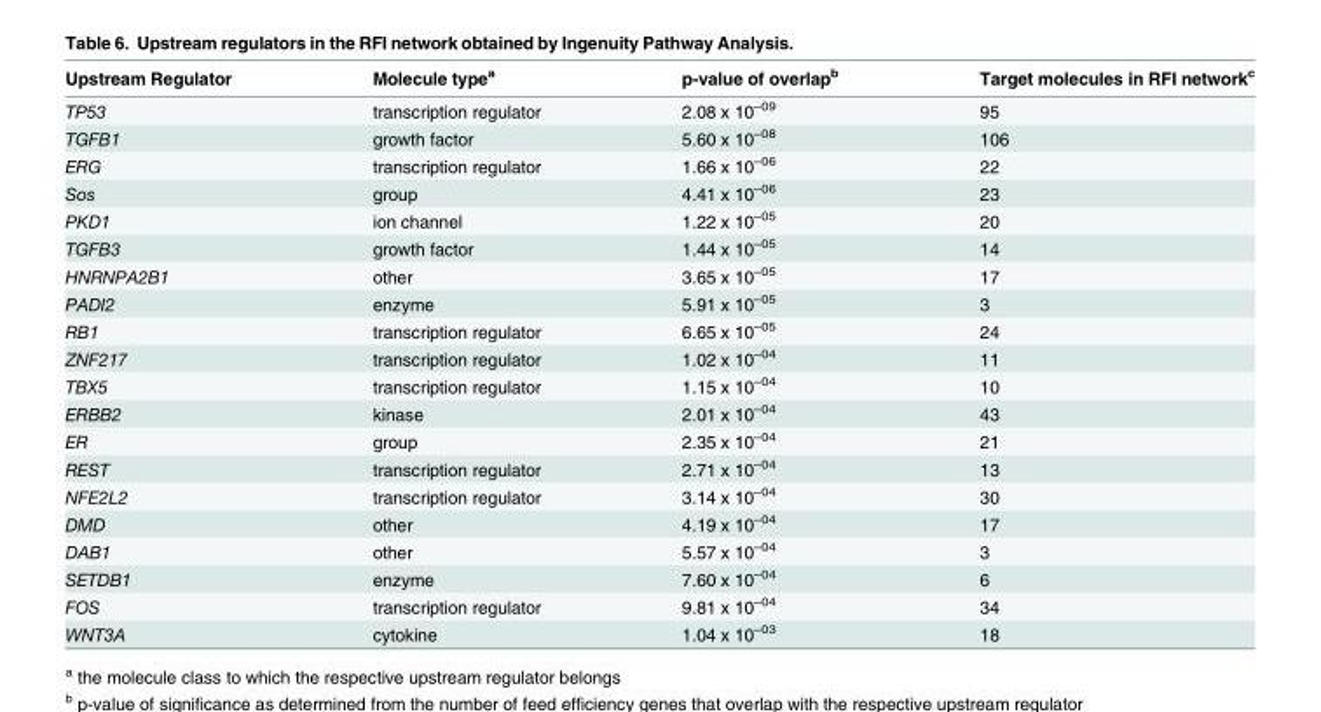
<table><thead><tr><td>Upstream Regulator</td><td>Molecule type<sup>a</sup></td><td>p-value of overlap<sup>b</sup></td><td>Target molecules in RFI network<sup>c</sup></td></tr></thead><tbody><tr><td>TP53</td><td>transcription regulator</td><td>2.08 x 10<sup>–09</sup></td><td>95</td></tr><tr><td>TGFB1</td><td>growth factor</td><td>5.60 x 10<sup>–08</sup></td><td>106</td></tr><tr><td>ERG</td><td>transcription regulator</td><td>1.66 x 10<sup>–06</sup></td><td>22</td></tr><tr><td>Sos</td><td>group</td><td>4.41 x 10<sup>–06</sup></td><td>23</td></tr><tr><td>PKD1</td><td>ion channel</td><td>1.22 x 10<sup>–05</sup></td><td>20</td></tr><tr><td>TGFB3</td><td>growth factor</td><td>1.44 x 10<sup>–05</sup></td><td>14</td></tr><tr><td>HNRNPA2B1</td><td>other</td><td>3.65 x 10<sup>–05</sup></td><td>17</td></tr><tr><td>PADI2</td><td>enzyme</td><td>5.91 x 10<sup>–05</sup></td><td>3</td></tr><tr><td>RB1</td><td>transcription regulator</td><td>6.65 x 10<sup>–05</sup></td><td>24</td></tr><tr><td>ZNF217</td><td>transcription regulator</td><td>1.02 x 10<sup>–04</sup></td><td>11</td></tr><tr><td>TBX5</td><td>transcription regulator</td><td>1.15 x 10<sup>–04</sup></td><td>10</td></tr><tr><td>ERBB2</td><td>kinase</td><td>2.01 x 10<sup>–04</sup></td><td>43</td></tr><tr><td>ER</td><td>group</td><td>2.35 x 10<sup>–04</sup></td><td>21</td></tr><tr><td>REST</td><td>transcription regulator</td><td>2.71 x 10<sup>–04</sup></td><td>13</td></tr><tr><td>NFE2L2</td><td>transcription regulator</td><td>3.14 x 10<sup>–04</sup></td><td>30</td></tr><tr><td>DMD</td><td>other</td><td>4.19 x 10<sup>–04</sup></td><td>17</td></tr><tr><td>DAB1</td><td>other</td><td>5.57 x 10<sup>–04</sup></td><td>3</td></tr><tr><td>SETDB1</td><td>enzyme</td><td>7.60 x 10<sup>–04</sup></td><td>6</td></tr><tr><td>FOS</td><td>transcription regulator</td><td>9.81 x 10<sup>–04</sup></td><td>34</td></tr><tr><td>WNT3A</td><td>cytokine</td><td>1.04 x 10<sup>–03</sup></td><td>18</td></tr></tbody></table>